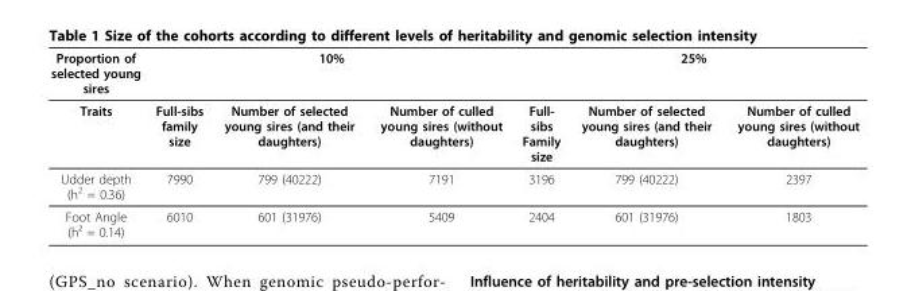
<table><thead><tr><td rowspan="2">Proportion of selected young sires Traits</td><td colspan="3">10%</td><td colspan="3">25%</td></tr><tr><td>Full-sibs family size</td><td>Number of selected young sires (and their daughters)</td><td>Number of culled young sires (without daughters)</td><td>Full- sibs Family size</td><td>Number of selected young sires (and their daughters)</td><td>Number of culled young sires (without daughters)</td></tr></thead><tbody><tr><td>Udder depth (h<sup>2</sup> = 0.36)</td><td>7990</td><td>799 (40222)</td><td>7191</td><td>3196</td><td>799 (40222)</td><td>2397</td></tr><tr><td>Foot Angle (h² = 0.14)</td><td>6010</td><td>601 (31976)</td><td>5409</td><td>2404</td><td>601 (31976)</td><td>1803</td></tr></tbody></table>